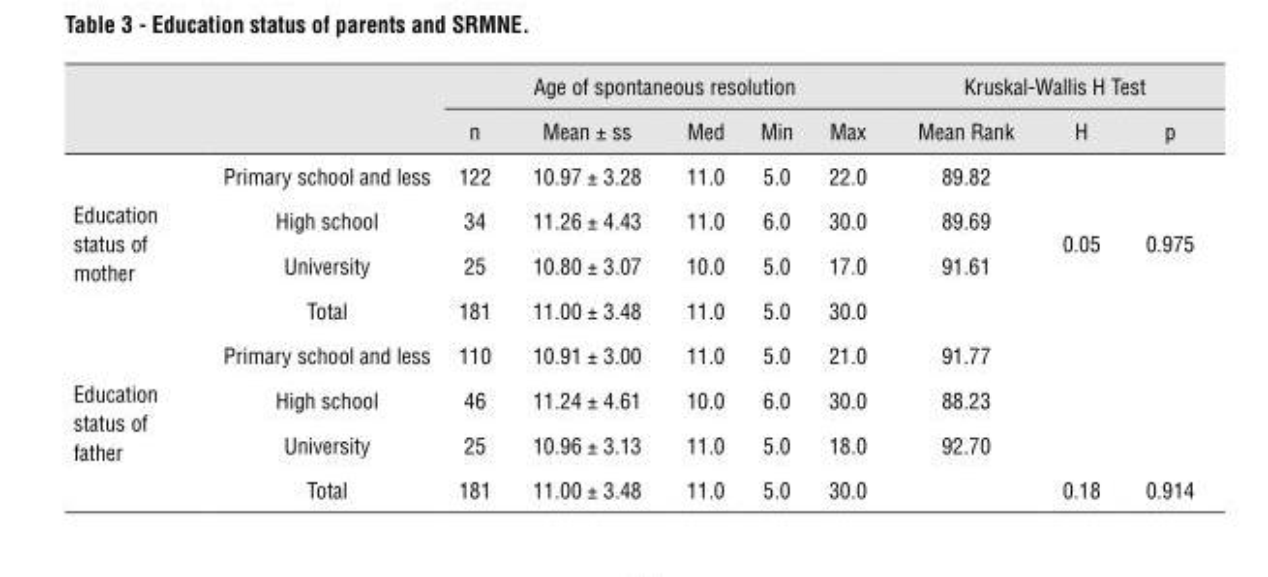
<table><thead><tr><td rowspan="2"></td><td rowspan="2"></td><td colspan="5">Age of spontaneous resolution</td><td colspan="3">Kruskal-Wallis H Test</td></tr><tr><td>n</td><td>Mean ± ss</td><td>Med</td><td>Min</td><td>Max</td><td>Mean Rank</td><td>H</td><td>p</td></tr></thead><tbody><tr><td rowspan="4">Education status of mother</td><td>Primary school and less</td><td>122</td><td>10.97 ± 3.28</td><td>11.0</td><td>5.0</td><td>22.0</td><td>89.82</td><td rowspan="4">0.05</td><td rowspan="4">0.975</td></tr><tr><td>High school</td><td>34</td><td>11.26 ± 4.43</td><td>11.0</td><td>6.0</td><td>30.0</td><td>89.69</td></tr><tr><td>University</td><td>25</td><td>10.80 ± 3.07</td><td>10.0</td><td>5.0</td><td>17.0</td><td>91.61</td></tr><tr><td>Total</td><td>181</td><td>11.00 ± 3.48</td><td>11.0</td><td>5.0</td><td>30.0</td><td></td></tr><tr><td rowspan="4">Education status of father</td><td>Primary school and less</td><td>110</td><td>10.91 ± 3.00</td><td>11.0</td><td>5.0</td><td>21.0</td><td>91.77</td><td></td><td></td></tr><tr><td>High school</td><td>46</td><td>11.24 ± 4.61</td><td>10.0</td><td>6.0</td><td>30.0</td><td>88.23</td><td></td><td></td></tr><tr><td>University</td><td>25</td><td>10.96 ± 3.13</td><td>11.0</td><td>5.0</td><td>18.0</td><td>92.70</td><td></td><td></td></tr><tr><td>Total</td><td>181</td><td>11.00 ± 3.48</td><td>11.0</td><td>5.0</td><td>30.0</td><td></td><td>0.18</td><td>0.914</td></tr></tbody></table>